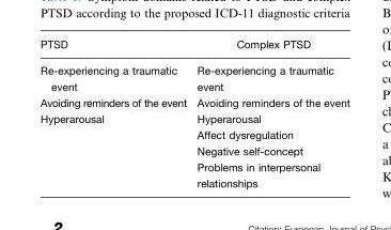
<table><thead><tr><td>PTSD</td><td>Complex PTSD</td></tr></thead><tbody><tr><td>Re-experiencing a traumatic event</td><td>Re-experiencing a traumatic event</td></tr><tr><td>Avoiding reminders of the event</td><td>Avoiding reminders of the event</td></tr><tr><td rowspan="4">Hyperarousal</td><td>Hyperarousal</td></tr><tr><td>Affect dysregulation</td></tr><tr><td>Negative self-concept</td></tr><tr><td>Problems in interpersonal relationships</td></tr></tbody></table>